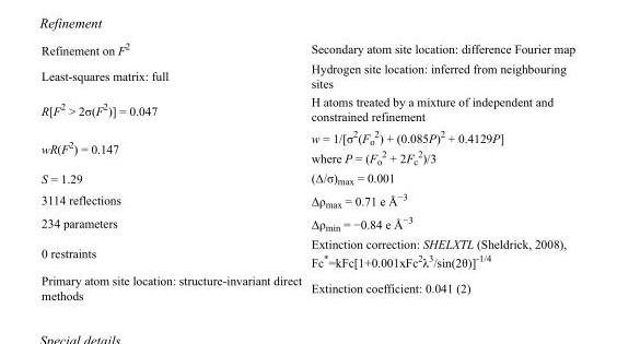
<table><tbody><tr><td>Refinement on F<sup>2</sup></td><td>Secondary atom site location: difference Fourier map</td></tr><tr><td>Least-squares matrix: full</td><td>Hydrogen site location: inferred from neighbouring sites</td></tr><tr><td>R[F<sup>2</sup> &gt; 2σ(F<sup>2</sup>)] = 0.047</td><td>H atoms treated by a mixture of independent and constrained refinement</td></tr><tr><td>wR(F<sup>2</sup>) = 0.147</td><td>w = 1/[σ<sup>2</sup>(F<sub>o</sub> <sup>2</sup>) + (0.085P)<sup>2</sup> + 0.4129P] where P = (F<sub>o</sub> <sup>2</sup> + 2F<sub>c</sub> <sup>2</sup>)/3</td></tr><tr><td>S = 1.29</td><td>(Δ/σ)<sub>max</sub> = 0.001</td></tr><tr><td>3114 reflections</td><td>Δρ<sub>max</sub> = 0.71 e Å<sup>−3</sup></td></tr><tr><td>234 parameters</td><td>Δρ<sub>min</sub> = −0.84 e Å<sup>−3</sup></td></tr><tr><td>0 restraints</td><td>Extinction correction: SHELXTL (Sheldrick, 2008), Fc*=kFc[1+0.001xFc<sup>2</sup>λ<sup>3</sup>/sin(2θ)]<sup>-1/4</sup></td></tr><tr><td>Primary atom site location: structure-invariant direct methods</td><td>Extinction coefficient: 0.041 (2)</td></tr></tbody></table>